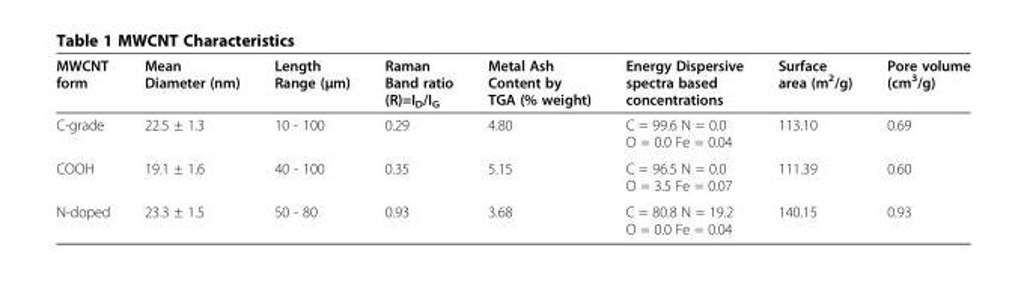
<table><thead><tr><td>MWCNT form</td><td>Mean Diameter (nm)</td><td>Length Range (μm)</td><td>Raman Band ratio (R)=I<sub>D</sub>/I<sub>G</sub></td><td>Metal Ash Content by TGA (% weight)</td><td>Energy Dispersive spectra based concentrations</td><td>Surface area (m<sup>2</sup>/g)</td><td>Pore volume (cm<sup>3</sup>/g)</td></tr></thead><tbody><tr><td>C-grade</td><td>22.5 ± 1.3</td><td>10 - 100</td><td>0.29</td><td>4.80</td><td>C = 99.6 N = 0.0 O = 0.0 Fe = 0.04</td><td>113.10</td><td>0.69</td></tr><tr><td>COOH</td><td>19.1 ± 1.6</td><td>40 - 100</td><td>0.35</td><td>5.15</td><td>C = 96.5 N = 0.0 O = 3.5 Fe = 0.07</td><td>111.39</td><td>0.60</td></tr><tr><td>N-doped</td><td>23.3 ± 1.5</td><td>50 - 80</td><td>0.93</td><td>3.68</td><td>C = 80.8 N = 19.2 O = 0.0 Fe = 0.04</td><td>140.15</td><td>0.93</td></tr></tbody></table>